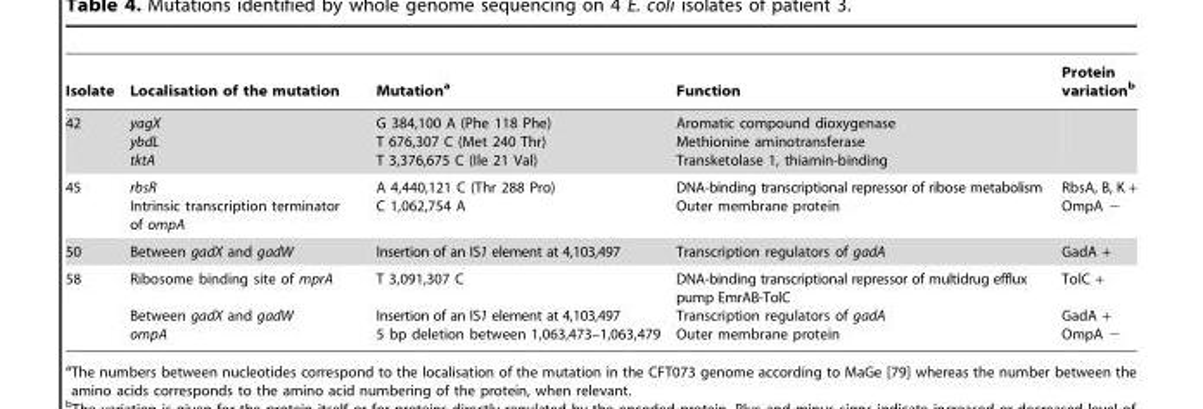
<table><thead><tr><td>Isolate</td><td>Localisation of the mutation</td><td>Mutation<sup>a</sup></td><td>Function</td><td>Protein variation<sup>b</sup></td></tr></thead><tbody><tr><td>42</td><td>yagX ybdL tktA</td><td>G 384,100 A (Phe 118 Phe) T 676,307 C (Met 240 Thr) T 3,376,675 C (Ile 21 Val)</td><td>Aromatic compound dioxygenase Methionine aminotransferase Transketolase 1, thiamin-binding</td><td></td></tr><tr><td>45</td><td>rbsR Intrinsic transcription terminator of ompA</td><td>A 4,440,121 C (Thr 288 Pro) C 1,062,754 A</td><td>DNA-binding transcriptional repressor of ribose metabolism Outer membrane protein</td><td>RbsA, B, K + OmpA −</td></tr><tr><td>50</td><td>Between gadX and gadW</td><td>Insertion of an IS1 element at 4,103,497</td><td>Transcription regulators of gadA</td><td>GadA +</td></tr><tr><td>58</td><td>Ribosome binding site of mprA Between gadX and gadW ompA</td><td>T 3,091,307 C Insertion of an IS1 element at 4,103,497 5 bp deletion between 1,063,473–1,063,479</td><td>DNA-binding transcriptional repressor of multidrug efflux pump EmrAB-TolC Transcription regulators of gadA Outer membrane protein</td><td>TolC + GadA + OmpA −</td></tr></tbody></table>